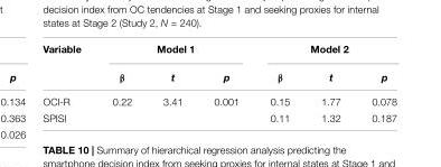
<table><thead><tr><td rowspan="2">Variable</td><td colspan="3">Model 1</td><td colspan="3">Model 2</td></tr><tr><td>β</td><td>t</td><td>p</td><td>β</td><td>t</td><td>p</td></tr></thead><tbody><tr><td>OCI-R</td><td>0.22</td><td>3.41</td><td>0.001</td><td>0.15</td><td>1.77</td><td>0.078</td></tr><tr><td>SPISI</td><td></td><td></td><td></td><td>0.11</td><td>1.32</td><td>0.187</td></tr></tbody></table>